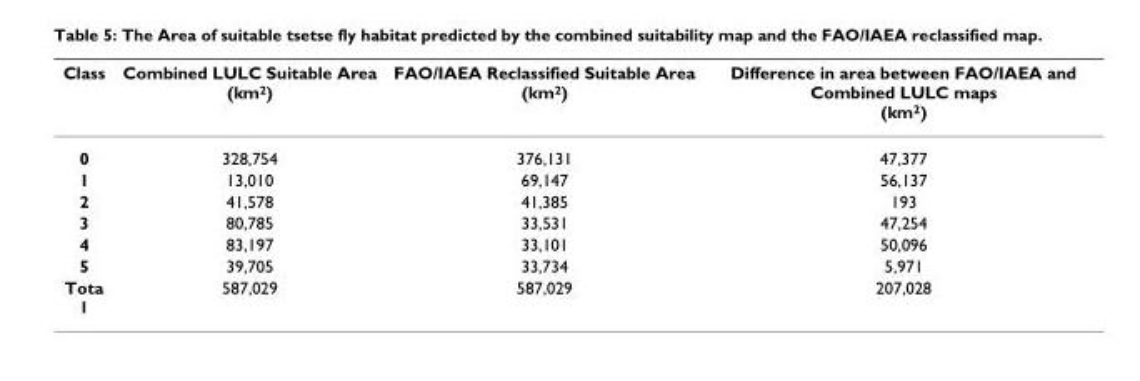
<table><thead><tr><td>Class</td><td>Combined LULC Suitable Area (km<sup>2</sup>)</td><td>FAO/IAEA Reclassified Suitable Area (km<sup>2</sup>)</td><td>Difference in area between FAO/IAEA and Combined LULC maps (km<sup>2</sup>)</td></tr></thead><tbody><tr><td>0</td><td>328,754</td><td>376,131</td><td>47,377</td></tr><tr><td>1</td><td>13,010</td><td>69,147</td><td>56,137</td></tr><tr><td>2</td><td>41,578</td><td>41,385</td><td>193</td></tr><tr><td>3</td><td>80,785</td><td>33,531</td><td>47,254</td></tr><tr><td>4</td><td>83,197</td><td>33,101</td><td>50,096</td></tr><tr><td>5</td><td>39,705</td><td>33,734</td><td>5,971</td></tr><tr><td>Tota l</td><td>587,029</td><td>587,029</td><td>207,028</td></tr></tbody></table>